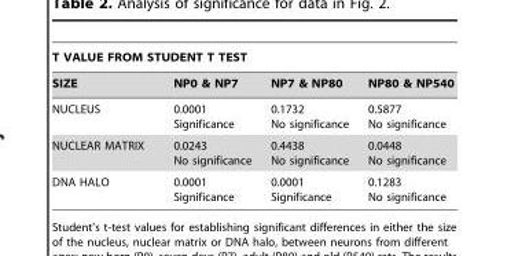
<table><thead><tr><td colspan="4">T VALUE FROM STUDENT T TEST</td></tr><tr><td>SIZE</td><td>NP0 &amp; NP7</td><td>NP7 &amp; NP80</td><td>NP80 &amp; NP540</td></tr></thead><tbody><tr><td>NUCLEUS</td><td>0.0001 Significance</td><td>0.1732 No significance</td><td>0.5877 No significance</td></tr><tr><td>NUCLEAR MATRIX</td><td>0.0243 No significance</td><td>0.4438 No significance</td><td>0.0448 No significance</td></tr><tr><td>DNA HALO</td><td>0.0001 Significance</td><td>0.0001 Significance</td><td>0.1283 No significance</td></tr></tbody></table>